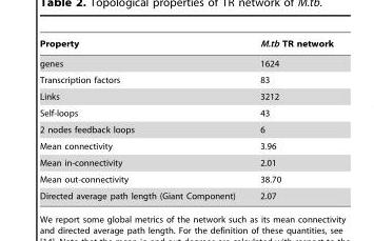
<table><thead><tr><td>Property</td><td>M.tb TR network</td></tr></thead><tbody><tr><td>genes</td><td>1624</td></tr><tr><td>Transcription factors</td><td>83</td></tr><tr><td>Links</td><td>3212</td></tr><tr><td>Self-loops</td><td>43</td></tr><tr><td>2 nodes feedback loops</td><td>6</td></tr><tr><td>Mean connectivity</td><td>3.96</td></tr><tr><td>Mean in-connectivity</td><td>2.01</td></tr><tr><td>Mean out-connectivity</td><td>38.70</td></tr><tr><td>Directed average path length (Giant Component)</td><td>2.07</td></tr></tbody></table>